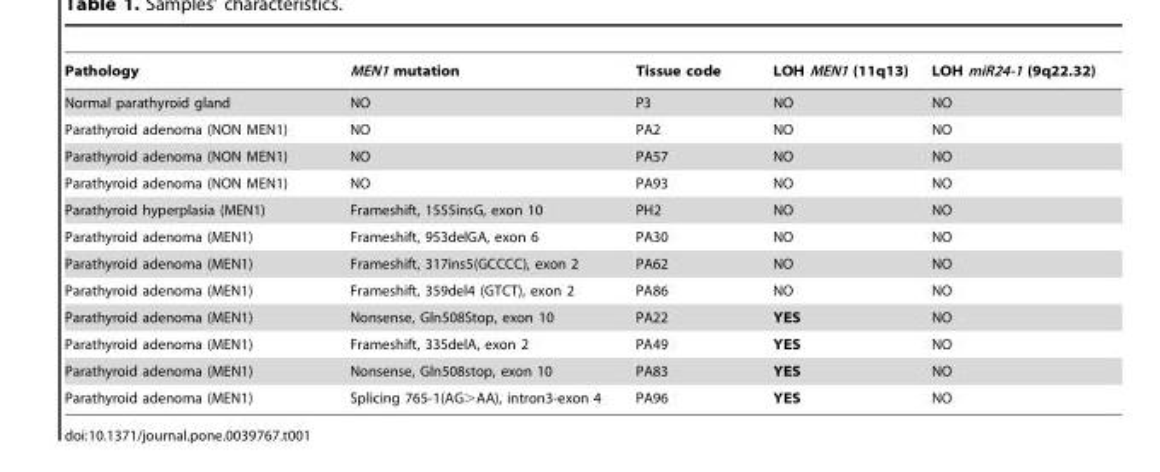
<table><thead><tr><td>Pathology</td><td>MEN1 mutation</td><td>Tissue code</td><td>LOH MEN1 (11q13)</td><td>LOH miR24-1 (9q22.32)</td></tr></thead><tbody><tr><td>Normal parathyroid gland</td><td>NO</td><td>P3</td><td>NO</td><td>NO</td></tr><tr><td>Parathyroid adenoma (NON MEN1)</td><td>NO</td><td>PA2</td><td>NO</td><td>NO</td></tr><tr><td>Parathyroid adenoma (NON MEN1)</td><td>NO</td><td>PA57</td><td>NO</td><td>NO</td></tr><tr><td>Parathyroid adenoma (NON MEN1)</td><td>NO</td><td>PA93</td><td>NO</td><td>NO</td></tr><tr><td>Parathyroid hyperplasia (MEN1)</td><td>Frameshift, 1555insG, exon 10</td><td>PH2</td><td>NO</td><td>NO</td></tr><tr><td>Parathyroid adenoma (MEN1)</td><td>Frameshift, 953delGA, exon 6</td><td>PA30</td><td>NO</td><td>NO</td></tr><tr><td>Parathyroid adenoma (MEN1)</td><td>Frameshift, 317ins5(GCCCC), exon 2</td><td>PA62</td><td>NO</td><td>NO</td></tr><tr><td>Parathyroid adenoma (MEN1)</td><td>Frameshift, 359del4 (GTCT), exon 2</td><td>PA86</td><td>NO</td><td>NO</td></tr><tr><td>Parathyroid adenoma (MEN1)</td><td>Nonsense, Gln508Stop, exon 10</td><td>PA22</td><td>YES</td><td>NO</td></tr><tr><td>Parathyroid adenoma (MEN1)</td><td>Frameshift, 335delA, exon 2</td><td>PA49</td><td>YES</td><td>NO</td></tr><tr><td>Parathyroid adenoma (MEN1)</td><td>Nonsense, Gln508stop, exon 10</td><td>PA83</td><td>YES</td><td>NO</td></tr><tr><td>Parathyroid adenoma (MEN1)</td><td>Splicing 765-1(AG&gt;AA), intron3-exon 4</td><td>PA96</td><td>YES</td><td>NO</td></tr></tbody></table>